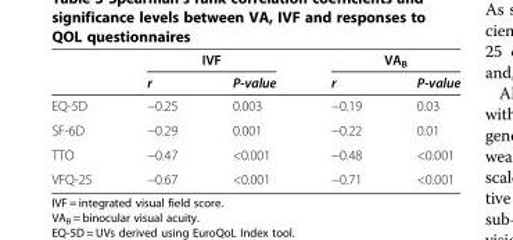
<table><thead><tr><td rowspan="2"></td><td rowspan="2">IVF r</td><td rowspan="2">P-value</td><td rowspan="2">VA<sub>B</sub> r</td><td rowspan="2">P-value</td></tr><tr></tr></thead><tbody><tr><td>EQ-5D</td><td>−0.25</td><td>0.003</td><td>−0.19</td><td>0.03</td></tr><tr><td>SF-6D</td><td>−0.29</td><td>0.001</td><td>−0.22</td><td>0.01</td></tr><tr><td>TTO</td><td>−0.47</td><td>&lt;0.001</td><td>−0.48</td><td>&lt;0.001</td></tr><tr><td>VFQ-25</td><td>−0.67</td><td>&lt;0.001</td><td>−0.71</td><td>&lt;0.001</td></tr></tbody></table>